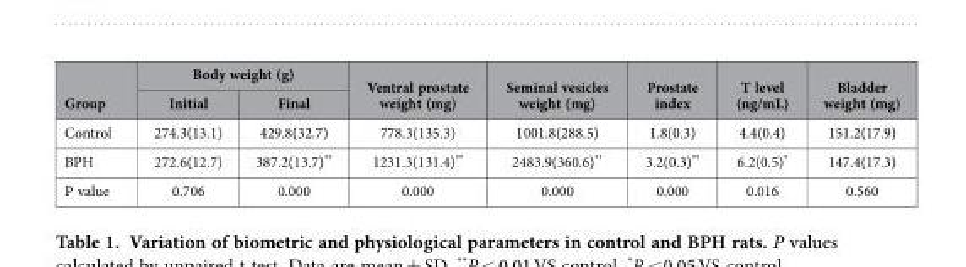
<table><thead><tr><td rowspan="2">Group</td><td colspan="2">Body weight (g)</td><td rowspan="2">Ventral prostate weight (mg)</td><td rowspan="2">Seminal vesicles weight (mg)</td><td rowspan="2">Prostate index</td><td rowspan="2">T level (ng/mL)</td><td rowspan="2">Bladder weight (mg)</td></tr><tr><td>Initial</td><td>Final</td></tr></thead><tbody><tr><td>Control</td><td>274.3(13.1)</td><td>429.8(32.7)</td><td>778.3(135.3)</td><td>1001.8(288.5)</td><td>1.8(0.3)</td><td>4.4(0.4)</td><td>151.2(17.9)</td></tr><tr><td>BPH</td><td>272.6(12.7)</td><td>387.2(13.7)**</td><td>1231.3(131.4)**</td><td>2483.9(360.6)**</td><td>3.2(0.3)**</td><td>6.2(0.5)*</td><td>147.4(17.3)</td></tr><tr><td>P value</td><td>0.706</td><td>0.000</td><td>0.000</td><td>0.000</td><td>0.000</td><td>0.016</td><td>0.560</td></tr></tbody></table>